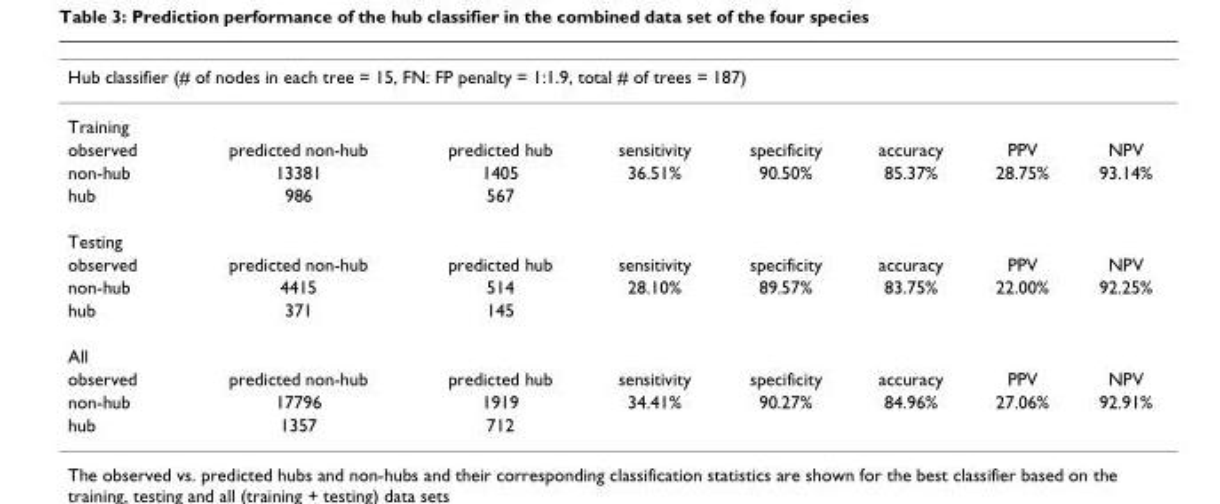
<table><tbody><tr><td colspan="8">Hub classifier (# of nodes in each tree = 15, FN: FP penalty = 1:1.9, total # of trees = 187)</td></tr><tr><td colspan="8">Training</td></tr><tr><td>observed</td><td>predicted non-hub</td><td>predicted hub</td><td>sensitivity</td><td>specificity</td><td>accuracy</td><td>PPV</td><td>NPV</td></tr><tr><td>non-hub</td><td>13381</td><td>1405</td><td>36.51%</td><td>90.50%</td><td>85.37%</td><td>28.75%</td><td>93.14%</td></tr><tr><td>hub</td><td>986</td><td>567</td><td></td><td></td><td></td><td></td><td></td></tr><tr><td colspan="8">Testing</td></tr><tr><td>observed</td><td>predicted non-hub</td><td>predicted hub</td><td>sensitivity</td><td>specificity</td><td>accuracy</td><td>PPV</td><td>NPV</td></tr><tr><td>non-hub</td><td>4415</td><td>514</td><td>28.10%</td><td>89.57%</td><td>83.75%</td><td>22.00%</td><td>92.25%</td></tr><tr><td>hub</td><td>371</td><td>145</td><td></td><td></td><td></td><td></td><td></td></tr><tr><td colspan="8">All</td></tr><tr><td>observed</td><td>predicted non-hub</td><td>predicted hub</td><td>sensitivity</td><td>specificity</td><td>accuracy</td><td>PPV</td><td>NPV</td></tr><tr><td>non-hub</td><td>17796</td><td>1919</td><td>34.41%</td><td>90.27%</td><td>84.96%</td><td>27.06%</td><td>92.91%</td></tr><tr><td>hub</td><td>1357</td><td>712</td><td></td><td></td><td></td><td></td><td></td></tr></tbody></table>